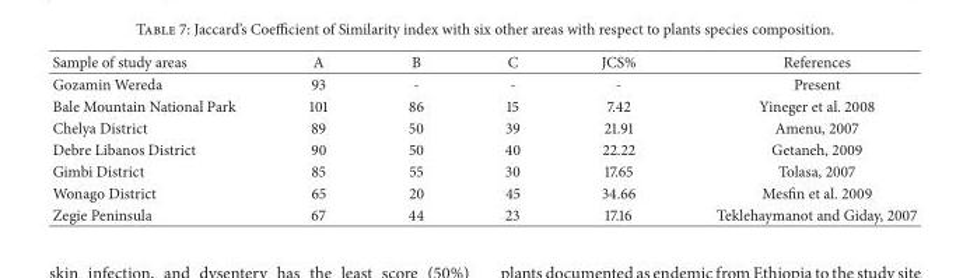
<table><thead><tr><td>Sample of study areas</td><td>A</td><td>B</td><td>C</td><td>JCS%</td><td>References</td></tr></thead><tbody><tr><td>Gozamin Wereda</td><td>93</td><td>-</td><td>-</td><td>-</td><td>Present</td></tr><tr><td>Bale Mountain National Park</td><td>101</td><td>86</td><td>15</td><td>7.42</td><td>Yineger et al. 2008</td></tr><tr><td>Chelya District</td><td>89</td><td>50</td><td>39</td><td>21.91</td><td>Amenu, 2007</td></tr><tr><td>Debre Libanos District</td><td>90</td><td>50</td><td>40</td><td>22.22</td><td>Getaneh, 2009</td></tr><tr><td>Gimbi District</td><td>85</td><td>55</td><td>30</td><td>17.65</td><td>Tolasa, 2007</td></tr><tr><td>Wonago District</td><td>65</td><td>20</td><td>45</td><td>34.66</td><td>Mesfin et al. 2009</td></tr><tr><td>Zegie Peninsula</td><td>67</td><td>44</td><td>23</td><td>17.16</td><td>Teklehaymanot and Giday, 2007</td></tr></tbody></table>